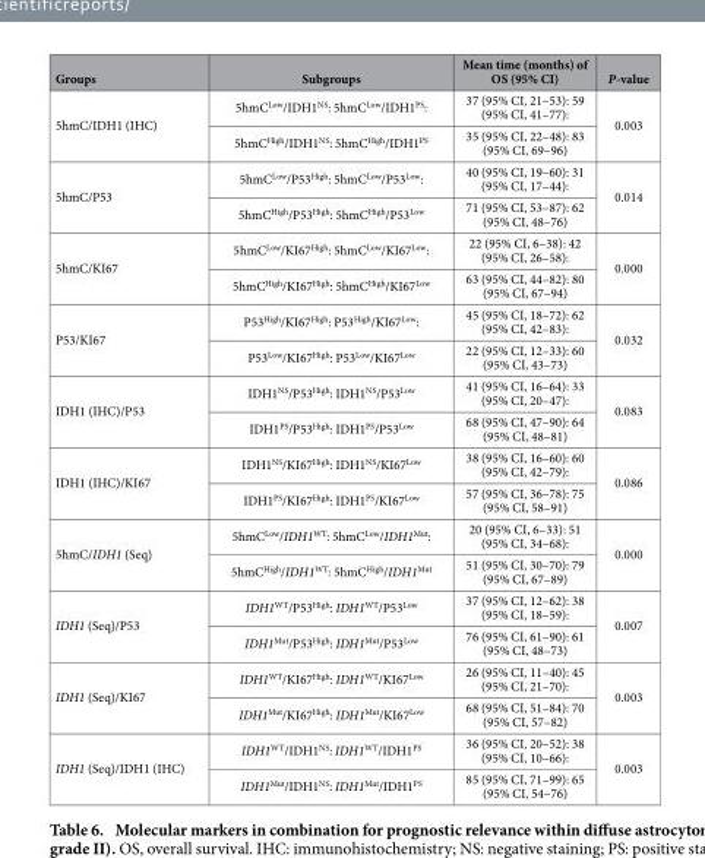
<table><thead><tr><td>Groups</td><td>Subgroups</td><td>Mean time (months) of OS (95% CI)</td><td>P-value</td></tr></thead><tbody><tr><td rowspan="2">5hmC/IDH1 (IHC)</td><td>5hmC<sup>Low</sup>/IDH1<sup>NS</sup>: 5hmC<sup>Low</sup>/IDH1<sup>PS</sup>:</td><td>37 (95% CI, 21–53): 59 (95% CI, 41–77):</td><td rowspan="2">0.003</td></tr><tr><td>5hmC<sup>High</sup>/IDH1<sup>NS</sup>: 5hmC<sup>High</sup>/IDH1<sup>PS</sup></td><td>35 (95% CI, 22–48): 83 (95% CI, 69–96)</td></tr><tr><td rowspan="2">5hmC/P53</td><td>5hmC<sup>Low</sup>/P53<sup>High</sup>: 5hmC<sup>Low</sup>/P53<sup>Low</sup>:</td><td>40 (95% CI, 19–60): 31 (95% CI, 17–44):</td><td rowspan="2">0.014</td></tr><tr><td>5hmC<sup>High</sup>/P53<sup>High</sup>: 5hmC<sup>High</sup>/P53<sup>Low</sup></td><td>71 (95% CI, 53–87): 62 (95% CI, 48–76)</td></tr><tr><td rowspan="2">5hmC/KI67</td><td>5hmC<sup>Low</sup>/KI67<sup>High</sup>: 5hmC<sup>Low</sup>/KI67<sup>Low</sup>:</td><td>22 (95% CI, 6–38): 42 (95% CI, 26–58):</td><td rowspan="2">0.000</td></tr><tr><td>5hmC<sup>High</sup>/KI67<sup>High</sup>: 5hmC<sup>High</sup>/KI67<sup>Low</sup></td><td>63 (95% CI, 44–82): 80 (95% CI, 67–94)</td></tr><tr><td rowspan="2">P53/KI67</td><td>P53<sup>High</sup>/KI67<sup>High</sup>: P53<sup>High</sup>/KI67<sup>Low</sup>:</td><td>45 (95% CI, 18–72): 62 (95% CI, 42–83):</td><td rowspan="2">0.032</td></tr><tr><td>P53<sup>Low</sup>/KI67<sup>High</sup>: P53<sup>Low</sup>/KI67<sup>Low</sup></td><td>22 (95% CI, 12–33): 60 (95% CI, 43–73)</td></tr><tr><td rowspan="2">IDH1 (IHC)/P53</td><td>IDH1<sup>NS</sup>/P53<sup>High</sup>: IDH1<sup>NS</sup>/P53<sup>Low</sup></td><td>41 (95% CI, 16–64): 33 (95% CI, 20–47):</td><td rowspan="2">0.083</td></tr><tr><td>IDH1<sup>PS</sup>/P53<sup>High</sup>: IDH1<sup>PS</sup>/P53<sup>Low</sup></td><td>68 (95% CI, 47–90): 64 (95% CI, 48–81)</td></tr><tr><td rowspan="2">IDH1 (IHC)/KI67</td><td>IDH1<sup>NS</sup>/KI67<sup>High</sup>: IDH1<sup>NS</sup>/KI67<sup>Low</sup></td><td>38 (95% CI, 16–60): 60 (95% CI, 42–79):</td><td rowspan="2">0.086</td></tr><tr><td>IDH1<sup>PS</sup>/KI67<sup>High</sup>: IDH1<sup>PS</sup>/KI67<sup>Low</sup></td><td>57 (95% CI, 36–78): 75 (95% CI, 58–91)</td></tr><tr><td rowspan="2">5hmC/IDH1 (Seq)</td><td>5hmC<sup>Low</sup>/IDH1<sup>WT</sup>: 5hmC<sup>Low</sup>/IDH1<sup>Mut</sup>:</td><td>20 (95% CI, 6–33): 51 (95% CI, 34–68):</td><td rowspan="2">0.000</td></tr><tr><td>5hmC<sup>High</sup>/IDH1<sup>WT</sup>: 5hmC<sup>High</sup>/IDH1<sup>Mut</sup></td><td>51 (95% CI, 30–70): 79 (95% CI, 67–89)</td></tr><tr><td rowspan="2">IDH1 (Seq)/P53</td><td>IDH1<sup>WT</sup>/P53<sup>High</sup>: IDH1<sup>WT</sup>/P53<sup>Low</sup></td><td>37 (95% CI, 12–62): 38 (95% CI, 18–59):</td><td rowspan="2">0.007</td></tr><tr><td>IDH1<sup>Mut</sup>/P53<sup>High</sup>: IDH1<sup>Mut</sup>/P53<sup>Low</sup></td><td>76 (95% CI, 61–90): 61 (95% CI, 48–73)</td></tr><tr><td rowspan="2">IDH1 (Seq)/KI67</td><td>IDH1<sup>WT</sup>/KI67<sup>High</sup>: IDH1<sup>WT</sup>/KI67<sup>Low</sup></td><td>26 (95% CI, 11–40): 45 (95% CI, 21–70):</td><td rowspan="2">0.003</td></tr><tr><td>IDH1<sup>Mut</sup>/KI67<sup>High</sup>: IDH1<sup>Mut</sup>/KI67<sup>Low</sup></td><td>68 (95% CI, 51–84): 70 (95% CI, 57–82)</td></tr><tr><td rowspan="2">IDH1 (Seq)/IDH1 (IHC)</td><td>IDH1<sup>WT</sup>/IDH1<sup>NS</sup>: IDH1<sup>WT</sup>/IDH1<sup>PS</sup></td><td>36 (95% CI, 20–52): 38 (95% CI, 10–66):</td><td rowspan="2">0.003</td></tr><tr><td>IDH1<sup>Mut</sup>/IDH1<sup>NS</sup>: IDH1<sup>Mut</sup>/IDH1<sup>PS</sup></td><td>85 (95% CI, 71–99): 65 (95% CI, 54–76)</td></tr></tbody></table>